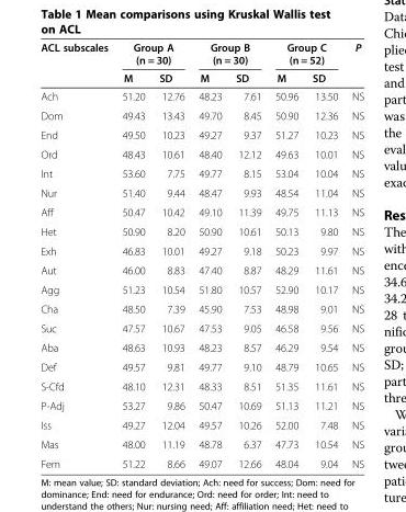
<table><thead><tr><td rowspan="2">ACL subscales</td><td colspan="2">Group A (n = 30)</td><td colspan="2">Group B (n = 30)</td><td colspan="2">Group C (n = 52)</td><td rowspan="2">P</td></tr><tr><td>M</td><td>SD</td><td>M</td><td>SD</td><td>M</td><td>SD</td></tr></thead><tbody><tr><td>Ach</td><td>51.20</td><td>12.76</td><td>48.23</td><td>7.61</td><td>50.96</td><td>13.50</td><td>NS</td></tr><tr><td>Dom</td><td>49.43</td><td>13.43</td><td>49.70</td><td>8.45</td><td>50.90</td><td>12.36</td><td>NS</td></tr><tr><td>End</td><td>49.50</td><td>10.23</td><td>49.27</td><td>9.37</td><td>51.27</td><td>10.23</td><td>NS</td></tr><tr><td>Ord</td><td>48.43</td><td>10.61</td><td>48.40</td><td>12.12</td><td>49.63</td><td>10.01</td><td>NS</td></tr><tr><td>Int</td><td>53.60</td><td>7.75</td><td>49.77</td><td>8.15</td><td>53.04</td><td>10.04</td><td>NS</td></tr><tr><td>Nur</td><td>51.40</td><td>9.44</td><td>48.47</td><td>9.93</td><td>48.54</td><td>11.04</td><td>NS</td></tr><tr><td>Aff</td><td>50.47</td><td>10.42</td><td>49.10</td><td>11.39</td><td>49.75</td><td>11.13</td><td>NS</td></tr><tr><td>Het</td><td>50.90</td><td>8.20</td><td>50.90</td><td>10.61</td><td>50.13</td><td>9.80</td><td>NS</td></tr><tr><td>Exh</td><td>46.83</td><td>10.01</td><td>49.27</td><td>9.18</td><td>50.23</td><td>9.97</td><td>NS</td></tr><tr><td>Aut</td><td>46.00</td><td>8.83</td><td>47.40</td><td>8.87</td><td>48.29</td><td>11.61</td><td>NS</td></tr><tr><td>Agg</td><td>51.23</td><td>10.54</td><td>51.80</td><td>10.57</td><td>52.90</td><td>10.17</td><td>NS</td></tr><tr><td>Cha</td><td>48.50</td><td>7.39</td><td>45.90</td><td>7.53</td><td>48.98</td><td>9.01</td><td>NS</td></tr><tr><td>Suc</td><td>47.57</td><td>10.67</td><td>47.53</td><td>9.05</td><td>46.58</td><td>9.56</td><td>NS</td></tr><tr><td>Aba</td><td>48.63</td><td>10.93</td><td>48.23</td><td>8.57</td><td>46.29</td><td>9.54</td><td>NS</td></tr><tr><td>Def</td><td>49.57</td><td>9.81</td><td>49.77</td><td>9.10</td><td>48.79</td><td>10.65</td><td>NS</td></tr><tr><td>S-Cfd</td><td>48.10</td><td>12.31</td><td>48.33</td><td>8.51</td><td>51.35</td><td>11.61</td><td>NS</td></tr><tr><td>P-Adj</td><td>53.27</td><td>9.86</td><td>50.47</td><td>10.69</td><td>51.13</td><td>11.21</td><td>NS</td></tr><tr><td>Iss</td><td>49.27</td><td>12.04</td><td>49.57</td><td>10.26</td><td>52.00</td><td>7.48</td><td>NS</td></tr><tr><td>Mas</td><td>48.00</td><td>11.19</td><td>48.78</td><td>6.37</td><td>47.73</td><td>10.54</td><td>NS</td></tr><tr><td>Fem</td><td>51.22</td><td>8.66</td><td>49.07</td><td>12.66</td><td>48.04</td><td>9.04</td><td>NS</td></tr></tbody></table>